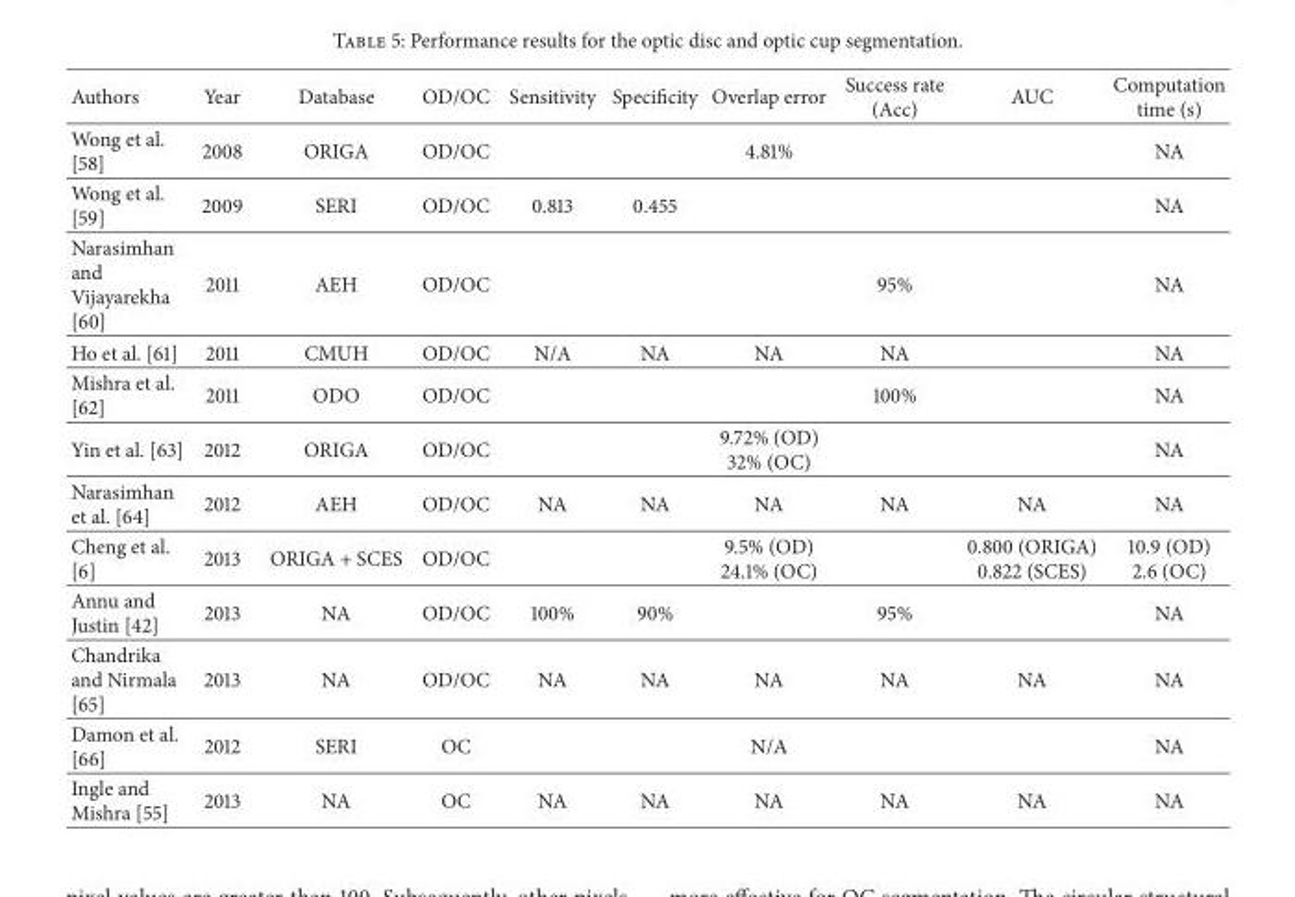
<table><thead><tr><td>Authors</td><td>Year</td><td>Database</td><td>OD/OC</td><td>Sensitivity</td><td>Specificity</td><td>Overlap error</td><td>Success rate (Acc)</td><td>AUC</td><td>Computation time (s)</td></tr></thead><tbody><tr><td>Wong et al. [58]</td><td>2008</td><td>ORIGA</td><td>OD/OC</td><td></td><td></td><td>4.81%</td><td></td><td></td><td>NA</td></tr><tr><td>Wong et al. [59]</td><td>2009</td><td>SERI</td><td>OD/OC</td><td>0.813</td><td>0.455</td><td></td><td></td><td></td><td>NA</td></tr><tr><td>Narasimhan and Vijayarekha [60]</td><td>2011</td><td>AEH</td><td>OD/OC</td><td></td><td></td><td></td><td>95%</td><td></td><td>NA</td></tr><tr><td>Ho et al. [61]</td><td>2011</td><td>CMUH</td><td>OD/OC</td><td>N/A</td><td>NA</td><td>NA</td><td>NA</td><td></td><td>NA</td></tr><tr><td>Mishra et al. [62]</td><td>2011</td><td>ODO</td><td>OD/OC</td><td></td><td></td><td></td><td>100%</td><td></td><td>NA</td></tr><tr><td>Yin et al. [63]</td><td>2012</td><td>ORIGA</td><td>OD/OC</td><td></td><td></td><td>9.72% (OD) 32% (OC)</td><td></td><td></td><td>NA</td></tr><tr><td>Narasimhan et al. [64]</td><td>2012</td><td>AEH</td><td>OD/OC</td><td>NA</td><td>NA</td><td>NA</td><td>NA</td><td>NA</td><td>NA</td></tr><tr><td>Cheng et al. [6]</td><td>2013</td><td>ORIGA + SCES</td><td>OD/OC</td><td></td><td></td><td>9.5% (OD) 24.1% (OC)</td><td></td><td>0.800 (ORIGA) 0.822 (SCES)</td><td>10.9 (OD) 2.6 (OC)</td></tr><tr><td>Annu and Justin [42]</td><td>2013</td><td>NA</td><td>OD/OC</td><td>100%</td><td>90%</td><td></td><td>95%</td><td></td><td>NA</td></tr><tr><td>Chandrika and Nirmala [65]</td><td>2013</td><td>NA</td><td>OD/OC</td><td>NA</td><td>NA</td><td>NA</td><td>NA</td><td>NA</td><td>NA</td></tr><tr><td>Damon et al. [66]</td><td>2012</td><td>SERI</td><td>OC</td><td></td><td></td><td>N/A</td><td></td><td></td><td>NA</td></tr><tr><td>Ingle and Mishra [55]</td><td>2013</td><td>NA</td><td>OC</td><td>NA</td><td>NA</td><td>NA</td><td>NA</td><td>NA</td><td>NA</td></tr></tbody></table>